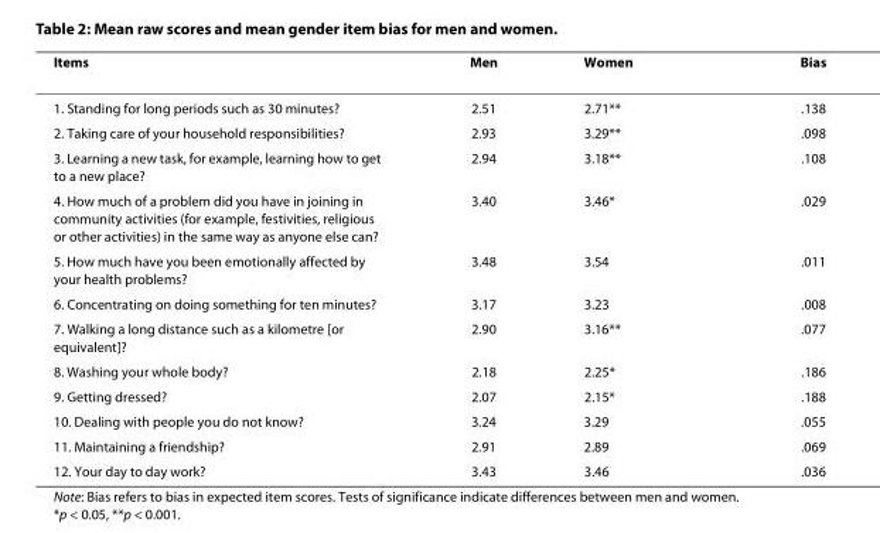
<table><thead><tr><td>Items</td><td>Men</td><td>Women</td><td>Bias</td></tr></thead><tbody><tr><td>1. Standing for long periods such as 30 minutes?</td><td>2.51</td><td>2.71**</td><td>.138</td></tr><tr><td>2. Taking care of your household responsibilities?</td><td>2.93</td><td>3.29**</td><td>.098</td></tr><tr><td>3. Learning a new task, for example, learning how to get to a new place?</td><td>2.94</td><td>3.18**</td><td>.108</td></tr><tr><td>4. How much of a problem did you have in joining in community activities (for example, festivities, religious or other activities) in the same way as anyone else can?</td><td>3.40</td><td>3.46*</td><td>.029</td></tr><tr><td>5. How much have you been emotionally affected by your health problems?</td><td>3.48</td><td>3.54</td><td>.011</td></tr><tr><td>6. Concentrating on doing something for ten minutes?</td><td>3.17</td><td>3.23</td><td>.008</td></tr><tr><td>7. Walking a long distance such as a kilometre [or equivalent]?</td><td>2.90</td><td>3.16**</td><td>.077</td></tr><tr><td>8. Washing your whole body?</td><td>2.18</td><td>2.25*</td><td>.186</td></tr><tr><td>9. Getting dressed?</td><td>2.07</td><td>2.15*</td><td>.188</td></tr><tr><td>10. Dealing with people you do not know?</td><td>3.24</td><td>3.29</td><td>.055</td></tr><tr><td>11. Maintaining a friendship?</td><td>2.91</td><td>2.89</td><td>.069</td></tr><tr><td>12. Your day to day work?</td><td>3.43</td><td>3.46</td><td>.036</td></tr></tbody></table>